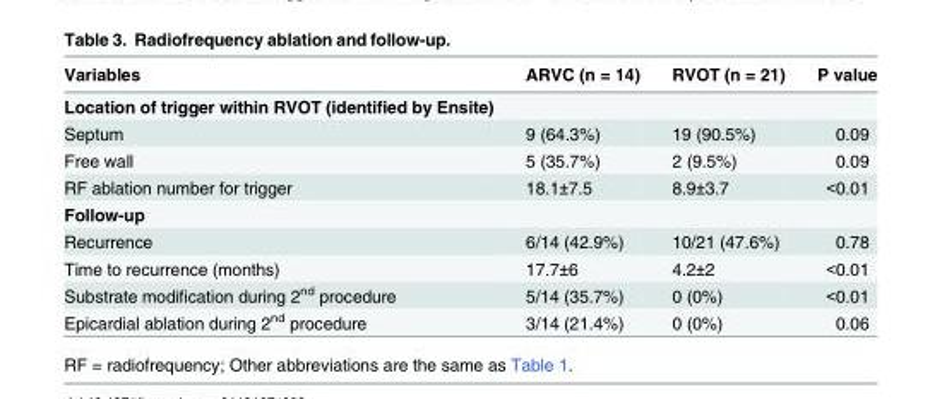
<table><thead><tr><td>Variables</td><td>ARVC (n = 14)</td><td>RVOT (n = 21)</td><td>P value</td></tr></thead><tbody><tr><td colspan="4">Location of trigger within RVOT (identified by Ensite)</td></tr><tr><td>Septum</td><td>9 (64.3%)</td><td>19 (90.5%)</td><td>0.09</td></tr><tr><td>Free wall</td><td>5 (35.7%)</td><td>2 (9.5%)</td><td>0.09</td></tr><tr><td>RF ablation number for trigger</td><td>18.1±7.5</td><td>8.9±3.7</td><td>&lt;0.01</td></tr><tr><td colspan="4">Follow-up</td></tr><tr><td>Recurrence</td><td>6/14 (42.9%)</td><td>10/21 (47.6%)</td><td>0.78</td></tr><tr><td>Time to recurrence (months)</td><td>17.7±6</td><td>4.2±2</td><td>&lt;0.01</td></tr><tr><td>Substrate modification during 2<sup>nd</sup> procedure</td><td>5/14 (35.7%)</td><td>0 (0%)</td><td>&lt;0.01</td></tr><tr><td>Epicardial ablation during 2<sup>nd</sup> procedure</td><td>3/14 (21.4%)</td><td>0 (0%)</td><td>0.06</td></tr></tbody></table>